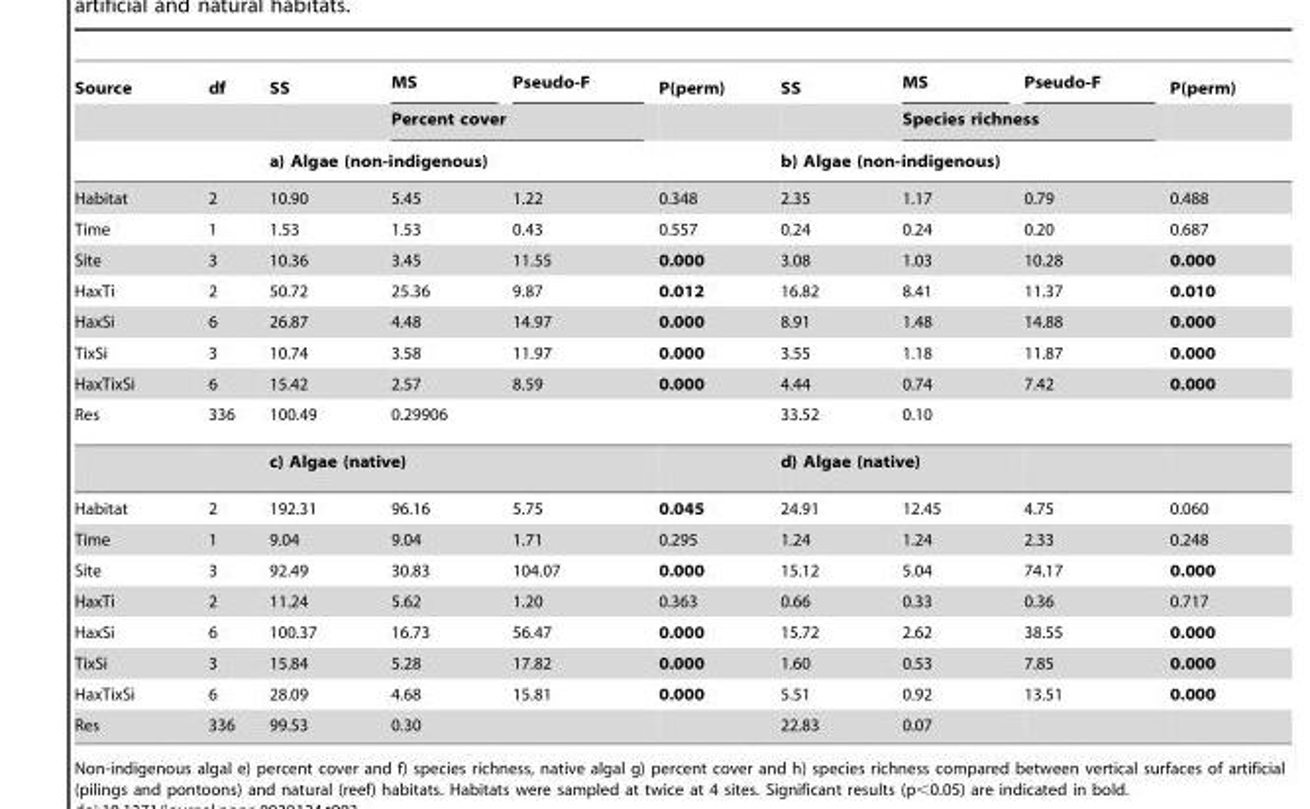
<table><thead><tr><td rowspan="3">Source</td><td rowspan="3">df</td><td rowspan="2">SS</td><td>MS</td><td>Pseudo-F</td><td rowspan="3">P(perm)</td><td rowspan="2">SS</td><td>MS</td><td>Pseudo-F</td><td rowspan="3">P(perm)</td></tr><tr><td colspan="2">Percent cover</td><td colspan="2">Species richness</td></tr><tr><td colspan="3">a) Algae (non-indigenous)</td><td colspan="3">b) Algae (non-indigenous)</td></tr></thead><tbody><tr><td>Habitat</td><td>2</td><td>10.90</td><td>5.45</td><td>1.22</td><td>0.348</td><td>2.35</td><td>1.17</td><td>0.79</td><td>0.488</td></tr><tr><td>Time</td><td>1</td><td>1.53</td><td>1.53</td><td>0.43</td><td>0.557</td><td>0.24</td><td>0.24</td><td>0.20</td><td>0.687</td></tr><tr><td>Site</td><td>3</td><td>10.36</td><td>3.45</td><td>11.55</td><td>0.000</td><td>3.08</td><td>1.03</td><td>10.28</td><td>0.000</td></tr><tr><td>HaxTi</td><td>2</td><td>50.72</td><td>25.36</td><td>9.87</td><td>0.012</td><td>16.82</td><td>8.41</td><td>11.37</td><td>0.010</td></tr><tr><td>HaxSi</td><td>6</td><td>26.87</td><td>4.48</td><td>14.97</td><td>0.000</td><td>8.91</td><td>1.48</td><td>14.88</td><td>0.000</td></tr><tr><td>TixSi</td><td>3</td><td>10.74</td><td>3.58</td><td>11.97</td><td>0.000</td><td>3.55</td><td>1.18</td><td>11.87</td><td>0.000</td></tr><tr><td>HaxTixSi</td><td>6</td><td>15.42</td><td>2.57</td><td>8.59</td><td>0.000</td><td>4.44</td><td>0.74</td><td>7.42</td><td>0.000</td></tr><tr><td rowspan="2">Res</td><td>336</td><td>100.49</td><td>0.29906</td><td></td><td></td><td>33.52</td><td>0.10</td><td></td><td></td></tr><tr><td></td><td colspan="2">c) Algae (native)</td><td></td><td></td><td colspan="2">d) Algae (native)</td><td></td><td></td></tr><tr><td>Habitat</td><td>2</td><td>192.31</td><td>96.16</td><td>5.75</td><td>0.045</td><td>24.91</td><td>12.45</td><td>4.75</td><td>0.060</td></tr><tr><td>Time</td><td>1</td><td>9.04</td><td>9.04</td><td>1.71</td><td>0.295</td><td>1.24</td><td>1.24</td><td>2.33</td><td>0.248</td></tr><tr><td>Site</td><td>3</td><td>92.49</td><td>30.83</td><td>104.07</td><td>0.000</td><td>15.12</td><td>5.04</td><td>74.17</td><td>0.000</td></tr><tr><td>HaxTi</td><td>2</td><td>11.24</td><td>5.62</td><td>1.20</td><td>0.363</td><td>0.66</td><td>0.33</td><td>0.36</td><td>0.717</td></tr><tr><td>HaxSi</td><td>6</td><td>100.37</td><td>16.73</td><td>56.47</td><td>0.000</td><td>15.72</td><td>2.62</td><td>38.55</td><td>0.000</td></tr><tr><td>TixSi</td><td>3</td><td>15.84</td><td>5.28</td><td>17.82</td><td>0.000</td><td>1.60</td><td>0.53</td><td>7.85</td><td>0.000</td></tr><tr><td>HaxTixSi</td><td>6</td><td>28.09</td><td>4.68</td><td>15.81</td><td>0.000</td><td>5.51</td><td>0.92</td><td>13.51</td><td>0.000</td></tr><tr><td>Res</td><td>336</td><td>99.53</td><td>0.30</td><td></td><td></td><td>22.83</td><td>0.07</td><td></td><td></td></tr></tbody></table>